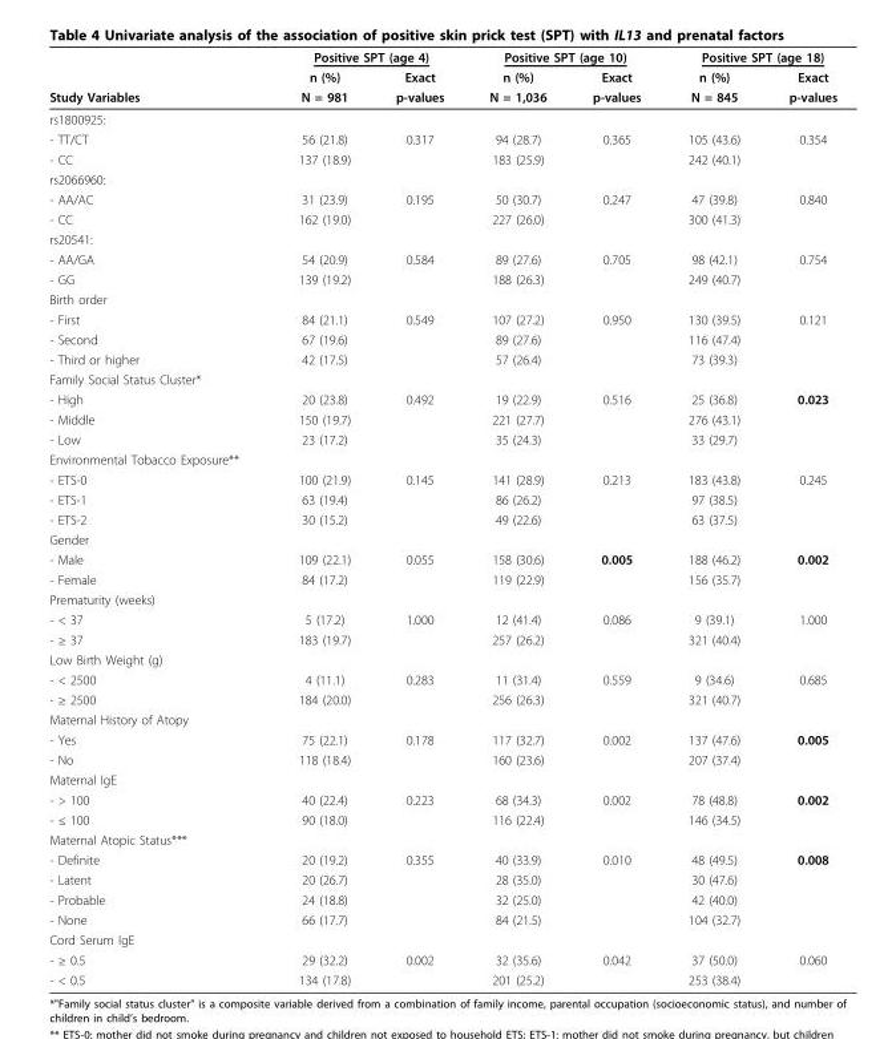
<table><thead><tr><td rowspan="3">Study Variables</td><td colspan="2">Positive SPT (age 4)</td><td colspan="2">Positive SPT (age 10)</td><td colspan="2">Positive SPT (age 18)</td></tr><tr><td rowspan="2">n (%) N = 981</td><td rowspan="2">Exact p-values</td><td rowspan="2">n (%) N = 1,036</td><td rowspan="2">Exact p-values</td><td rowspan="2">n (%) N = 845</td><td rowspan="2">Exact p-values</td></tr><tr></tr></thead><tbody><tr><td colspan="7">rs1800925:</td></tr><tr><td>- TT/CT</td><td>56 (21.8)</td><td>0.317</td><td>94 (28.7)</td><td>0.365</td><td>105 (43.6)</td><td>0.354</td></tr><tr><td>- CC</td><td>137 (18.9)</td><td></td><td>183 (25.9)</td><td></td><td>242 (40.1)</td><td></td></tr><tr><td colspan="7">rs2066960:</td></tr><tr><td>- AA/AC</td><td>31 (23.9)</td><td>0.195</td><td>50 (30.7)</td><td>0.247</td><td>47 (39.8)</td><td>0.840</td></tr><tr><td>- CC</td><td>162 (19.0)</td><td></td><td>227 (26.0)</td><td></td><td>300 (41.3)</td><td></td></tr><tr><td colspan="7">rs20541:</td></tr><tr><td>- AA/GA</td><td>54 (20.9)</td><td>0.584</td><td>89 (27.6)</td><td>0.705</td><td>98 (42.1)</td><td>0.754</td></tr><tr><td>- GG</td><td>139 (19.2)</td><td></td><td>188 (26.3)</td><td></td><td>249 (40.7)</td><td></td></tr><tr><td colspan="7">Birth order</td></tr><tr><td>- First</td><td>84 (21.1)</td><td>0.549</td><td>107 (27.2)</td><td>0.950</td><td>130 (39.5)</td><td>0.121</td></tr><tr><td>- Second</td><td>67 (19.6)</td><td></td><td>89 (27.6)</td><td></td><td>116 (47.4)</td><td></td></tr><tr><td>- Third or higher</td><td>42 (17.5)</td><td></td><td>57 (26.4)</td><td></td><td>73 (39.3)</td><td></td></tr><tr><td colspan="7">Family Social Status Cluster*</td></tr><tr><td>- High</td><td>20 (23.8)</td><td>0.492</td><td>19 (22.9)</td><td>0.516</td><td>25 (36.8)</td><td>0.023</td></tr><tr><td>- Middle</td><td>150 (19.7)</td><td></td><td>221 (27.7)</td><td></td><td>276 (43.1)</td><td></td></tr><tr><td>- Low</td><td>23 (17.2)</td><td></td><td>35 (24.3)</td><td></td><td>33 (29.7)</td><td></td></tr><tr><td colspan="7">Environmental Tobacco Exposure**</td></tr><tr><td>- ETS-0</td><td>100 (21.9)</td><td>0.145</td><td>141 (28.9)</td><td>0.213</td><td>183 (43.8)</td><td>0.245</td></tr><tr><td>- ETS-1</td><td>63 (19.4)</td><td></td><td>86 (26.2)</td><td></td><td>97 (38.5)</td><td></td></tr><tr><td>- ETS-2</td><td>30 (15.2)</td><td></td><td>49 (22.6)</td><td></td><td>63 (37.5)</td><td></td></tr><tr><td colspan="7">Gender</td></tr><tr><td>- Male</td><td>109 (22.1)</td><td>0.055</td><td>158 (30.6)</td><td>0.005</td><td>188 (46.2)</td><td>0.002</td></tr><tr><td>- Female</td><td>84 (17.2)</td><td></td><td>119 (22.9)</td><td></td><td>156 (35.7)</td><td></td></tr><tr><td colspan="7">Prematurity (weeks)</td></tr><tr><td>- &lt; 37</td><td>5 (17.2)</td><td>1.000</td><td>12 (41.4)</td><td>0.086</td><td>9 (39.1)</td><td>1.000</td></tr><tr><td>- ≥ 37</td><td>183 (19.7)</td><td></td><td>257 (26.2)</td><td></td><td>321 (40.4)</td><td></td></tr><tr><td colspan="7">Low Birth Weight (g)</td></tr><tr><td>- &lt; 2500</td><td>4 (11.1)</td><td>0.283</td><td>11 (31.4)</td><td>0.559</td><td>9 (34.6)</td><td>0.685</td></tr><tr><td>- ≥ 2500</td><td>184 (20.0)</td><td></td><td>256 (26.3)</td><td></td><td>321 (40.7)</td><td></td></tr><tr><td colspan="7">Maternal History of Atopy</td></tr><tr><td>- Yes</td><td>75 (22.1)</td><td>0.178</td><td>117 (32.7)</td><td>0.002</td><td>137 (47.6)</td><td>0.005</td></tr><tr><td>- No</td><td>118 (18.4)</td><td></td><td>160 (23.6)</td><td></td><td>207 (37.4)</td><td></td></tr><tr><td colspan="7">Maternal IgE</td></tr><tr><td>- &gt; 100</td><td>40 (22.4)</td><td>0.223</td><td>68 (34.3)</td><td>0.002</td><td>78 (48.8)</td><td>0.002</td></tr><tr><td>- ≤ 100</td><td>90 (18.0)</td><td></td><td>116 (22.4)</td><td></td><td>146 (34.5)</td><td></td></tr><tr><td colspan="7">Maternal Atopic Status***</td></tr><tr><td>- Definite</td><td>20 (19.2)</td><td>0.355</td><td>40 (33.9)</td><td>0.010</td><td>48 (49.5)</td><td>0.008</td></tr><tr><td>- Latent</td><td>20 (26.7)</td><td></td><td>28 (35.0)</td><td></td><td>30 (47.6)</td><td></td></tr><tr><td>- Probable</td><td>24 (18.8)</td><td></td><td>32 (25.0)</td><td></td><td>42 (40.0)</td><td></td></tr><tr><td>- None</td><td>66 (17.7)</td><td></td><td>84 (21.5)</td><td></td><td>104 (32.7)</td><td></td></tr><tr><td colspan="7">Cord Serum IgE</td></tr><tr><td>- ≥ 0.5</td><td>29 (32.2)</td><td>0.002</td><td>32 (35.6)</td><td>0.042</td><td>37 (50.0)</td><td>0.060</td></tr><tr><td>- &lt; 0.5</td><td>134 (17.8)</td><td></td><td>201 (25.2)</td><td></td><td>253 (38.4)</td><td></td></tr></tbody></table>